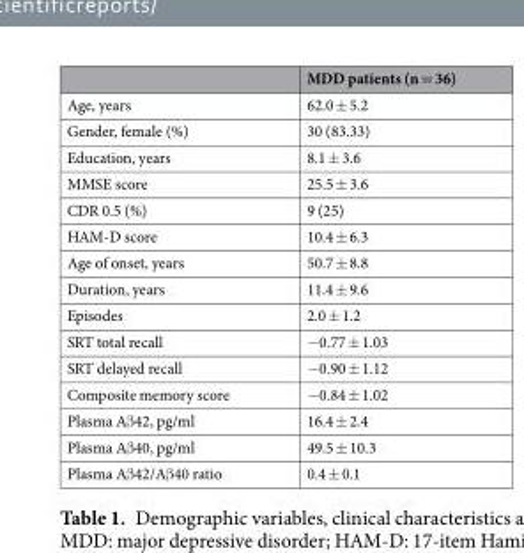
<table><thead><tr><td></td><td>MDD patients (n = 36)</td></tr></thead><tbody><tr><td>Age, years</td><td>62.0 ± 5.2</td></tr><tr><td>Gender, female (%)</td><td>30 (83.33)</td></tr><tr><td>Education, years</td><td>8.1 ± 3.6</td></tr><tr><td>MMSE score</td><td>25.5 ± 3.6</td></tr><tr><td>CDR 0.5 (%)</td><td>9 (25)</td></tr><tr><td>HAM-D score</td><td>10.4 ± 6.3</td></tr><tr><td>Age of onset, years</td><td>50.7 ± 8.8</td></tr><tr><td>Duration, years</td><td>11.4 ± 9.6</td></tr><tr><td>Episodes</td><td>2.0 ± 1.2</td></tr><tr><td>SRT total recall</td><td>−0.77 ± 1.03</td></tr><tr><td>SRT delayed recall</td><td>−0.90 ± 1.12</td></tr><tr><td>Composite memory score</td><td>−0.84 ± 1.02</td></tr><tr><td>Plasma Aβ42, pg/ml</td><td>16.4 ± 2.4</td></tr><tr><td>Plasma Aβ40, pg/ml</td><td>49.5 ± 10.3</td></tr><tr><td>Plasma Aβ42/Aβ40 ratio</td><td>0.4 ± 0.1</td></tr></tbody></table>